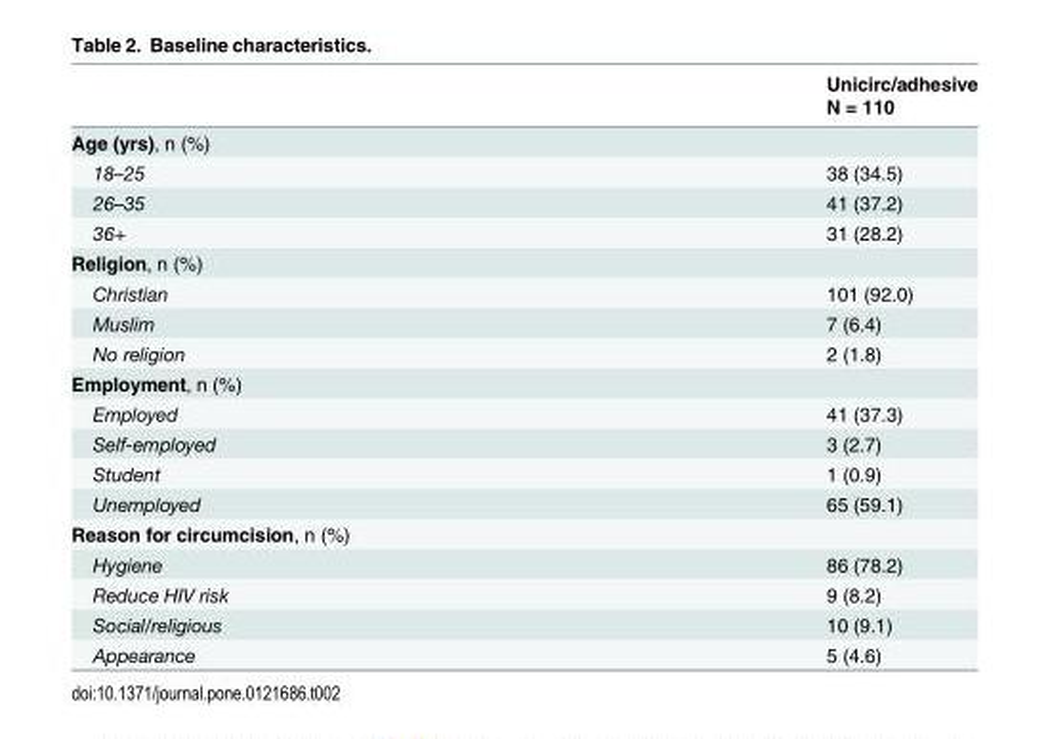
<table><thead><tr><td rowspan="2"></td><td rowspan="2">Unicirc/adhesive N = 110</td></tr><tr></tr></thead><tbody><tr><td colspan="2">Age (yrs), n (%)</td></tr><tr><td>18–25</td><td>38 (34.5)</td></tr><tr><td>26–35</td><td>41 (37.2)</td></tr><tr><td>36+</td><td>31 (28.2)</td></tr><tr><td colspan="2">Religion, n (%)</td></tr><tr><td>Christian</td><td>101 (92.0)</td></tr><tr><td>Muslim</td><td>7 (6.4)</td></tr><tr><td>No religion</td><td>2 (1.8)</td></tr><tr><td colspan="2">Employment, n (%)</td></tr><tr><td>Employed</td><td>41 (37.3)</td></tr><tr><td>Self-employed</td><td>3 (2.7)</td></tr><tr><td>Student</td><td>1 (0.9)</td></tr><tr><td>Unemployed</td><td>65 (59.1)</td></tr><tr><td colspan="2">Reason for circumcision, n (%)</td></tr><tr><td>Hygiene</td><td>86 (78.2)</td></tr><tr><td>Reduce HIV risk</td><td>9 (8.2)</td></tr><tr><td>Social/religious</td><td>10 (9.1)</td></tr><tr><td>Appearance</td><td>5 (4.6)</td></tr></tbody></table>